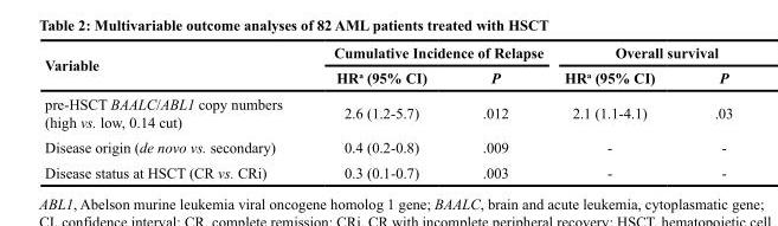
<table><thead><tr><td rowspan="2">Variable</td><td colspan="2">Cumulative Incidence of Relapse</td><td colspan="2">Overall survival</td></tr><tr><td>HR<sup>a</sup> (95% CI)</td><td>P</td><td>HR<sup>a</sup> (95% CI)</td><td>P</td></tr></thead><tbody><tr><td>pre-HSCT BAALC/ABL1 copy numbers (high vs. low, 0.14 cut)</td><td>2.6 (1.2-5.7)</td><td>.012</td><td>2.1 (1.1-4.1)</td><td>.03</td></tr><tr><td>Disease origin (de novo vs. secondary)</td><td>0.4 (0.2-0.8)</td><td>.009</td><td>-</td><td>-</td></tr><tr><td>Disease status at HSCT (CR vs. CRi)</td><td>0.3 (0.1-0.7)</td><td>.003</td><td>-</td><td>-</td></tr></tbody></table>